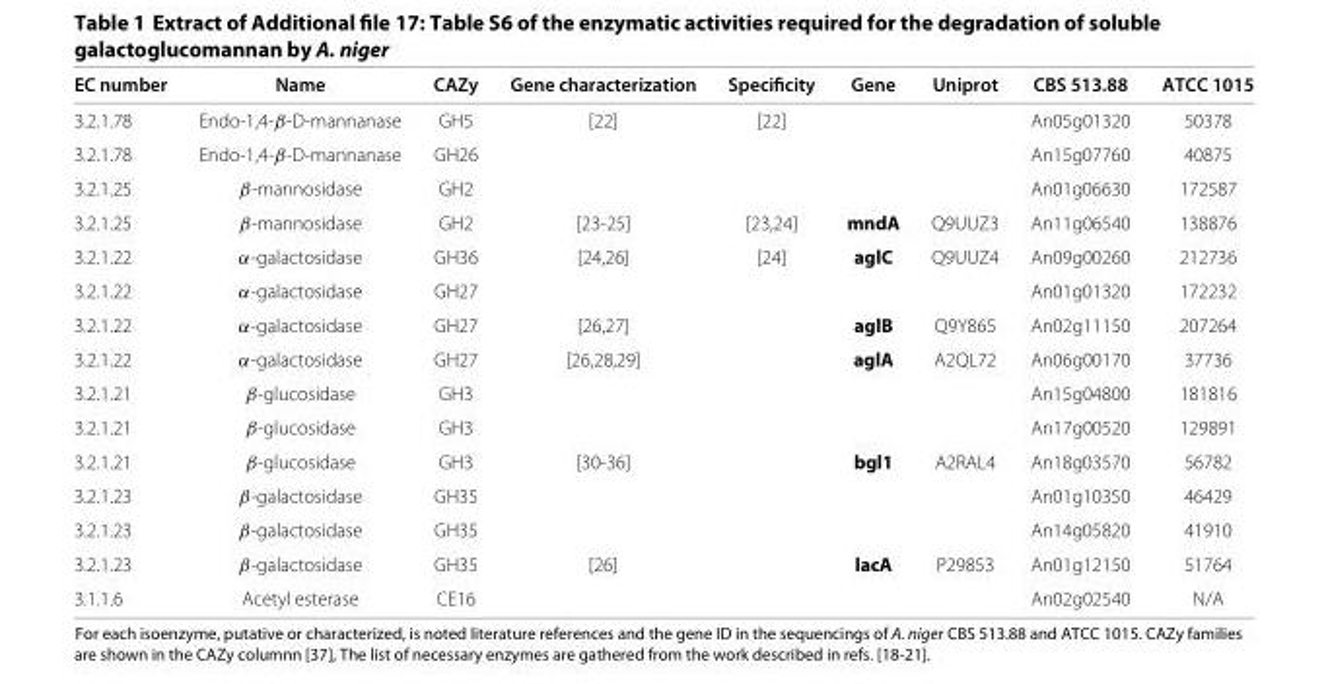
<table><thead><tr><td>EC number</td><td>Name</td><td>CAZy</td><td>Gene characterization</td><td>Specificity</td><td>Gene</td><td>Uniprot</td><td>CBS 513.88</td><td>ATCC 1015</td></tr></thead><tbody><tr><td>3.2.1.78</td><td>Endo-1,4-β-D-mannanase</td><td>GH5</td><td>[22]</td><td>[22]</td><td></td><td></td><td>An05g01320</td><td>50378</td></tr><tr><td>3.2.1.78</td><td>Endo-1,4-β-D-mannanase</td><td>GH26</td><td></td><td></td><td></td><td></td><td>An15g07760</td><td>40875</td></tr><tr><td>3.2.1.25</td><td>β-mannosidase</td><td>GH2</td><td></td><td></td><td></td><td></td><td>An01g06630</td><td>172587</td></tr><tr><td>3.2.1.25</td><td>β-mannosidase</td><td>GH2</td><td>[23-25]</td><td>[23,24]</td><td>mndA</td><td>Q9UUZ3</td><td>An11g06540</td><td>138876</td></tr><tr><td>3.2.1.22</td><td>α-galactosidase</td><td>GH36</td><td>[24,26]</td><td>[24]</td><td>aglC</td><td>Q9UUZ4</td><td>An09g00260</td><td>212736</td></tr><tr><td>3.2.1.22</td><td>α-galactosidase</td><td>GH27</td><td></td><td></td><td></td><td></td><td>An01g01320</td><td>172232</td></tr><tr><td>3.2.1.22</td><td>α-galactosidase</td><td>GH27</td><td>[26,27]</td><td></td><td>aglB</td><td>Q9Y865</td><td>An02g11150</td><td>207264</td></tr><tr><td>3.2.1.22</td><td>α-galactosidase</td><td>GH27</td><td>[26,28,29]</td><td></td><td>aglA</td><td>A2QL72</td><td>An06g00170</td><td>37736</td></tr><tr><td>3.2.1.21</td><td>β-glucosidase</td><td>GH3</td><td></td><td></td><td></td><td></td><td>An15g04800</td><td>181816</td></tr><tr><td>3.2.1.21</td><td>β-glucosidase</td><td>GH3</td><td></td><td></td><td></td><td></td><td>An17g00520</td><td>129891</td></tr><tr><td>3.2.1.21</td><td>β-glucosidase</td><td>GH3</td><td>[30-36]</td><td></td><td>bgl1</td><td>A2RAL4</td><td>An18g03570</td><td>56782</td></tr><tr><td>3.2.1.23</td><td>β-galactosidase</td><td>GH35</td><td></td><td></td><td></td><td></td><td>An01g10350</td><td>46429</td></tr><tr><td>3.2.1.23</td><td>β-galactosidase</td><td>GH35</td><td></td><td></td><td></td><td></td><td>An14g05820</td><td>41910</td></tr><tr><td>3.2.1.23</td><td>β-galactosidase</td><td>GH35</td><td>[26]</td><td></td><td>lacA</td><td>P29853</td><td>An01g12150</td><td>51764</td></tr><tr><td>3.1.1.6</td><td>Acetyl esterase</td><td>CE16</td><td></td><td></td><td></td><td></td><td>An02g02540</td><td>N/A</td></tr></tbody></table>